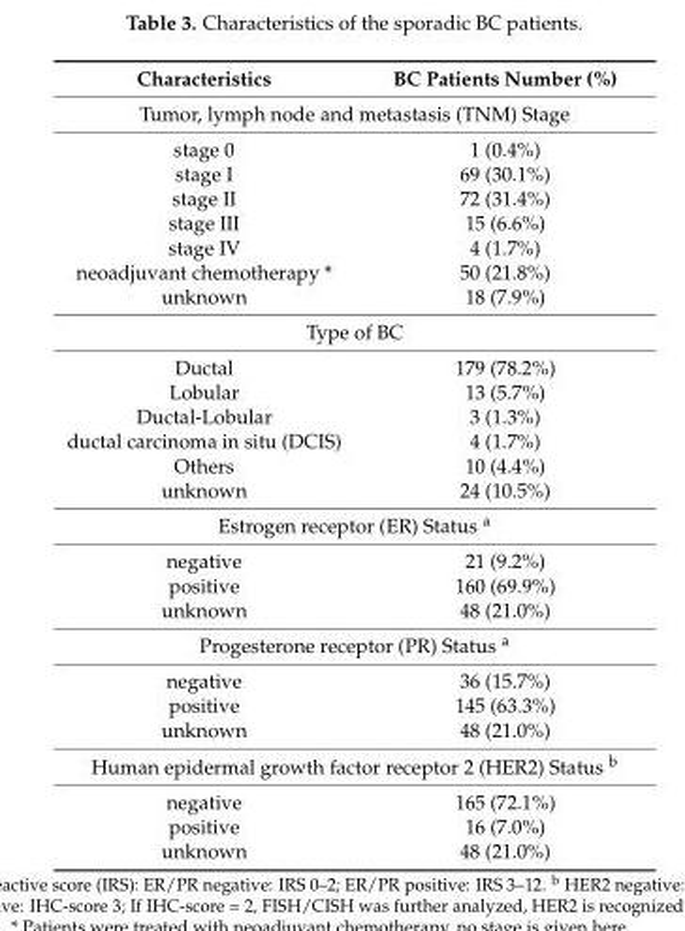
<table><thead><tr><td>Characteristics</td><td>BC Patients Number (%)</td></tr></thead><tbody><tr><td colspan="2">Tumor, lymph node and metastasis (TNM) Stage</td></tr><tr><td>stage 0</td><td>1 (0.4%)</td></tr><tr><td>stage I</td><td>69 (30.1%)</td></tr><tr><td>stage II</td><td>72 (31.4%)</td></tr><tr><td>stage III</td><td>15 (6.6%)</td></tr><tr><td>stage IV</td><td>4 (1.7%)</td></tr><tr><td>neoadjuvant chemotherapy *</td><td>50 (21.8%)</td></tr><tr><td>unknown</td><td>18 (7.9%)</td></tr><tr><td colspan="2">Type of BC</td></tr><tr><td>Ductal</td><td>179 (78.2%)</td></tr><tr><td>Lobular</td><td>13 (5.7%)</td></tr><tr><td>Ductal-Lobular</td><td>3 (1.3%)</td></tr><tr><td>ductal carcinoma in situ (DCIS)</td><td>4 (1.7%)</td></tr><tr><td>Others</td><td>10 (4.4%)</td></tr><tr><td>unknown</td><td>24 (10.5%)</td></tr><tr><td colspan="2">Estrogen receptor (ER) Status <sup>a</sup></td></tr><tr><td>negative</td><td>21 (9.2%)</td></tr><tr><td>positive</td><td>160 (69.9%)</td></tr><tr><td>unknown</td><td>48 (21.0%)</td></tr><tr><td colspan="2">Progesterone receptor (PR) Status <sup>a</sup></td></tr><tr><td>negative</td><td>36 (15.7%)</td></tr><tr><td>positive</td><td>145 (63.3%)</td></tr><tr><td>unknown</td><td>48 (21.0%)</td></tr><tr><td colspan="2">Human epidermal growth factor receptor 2 (HER2) Status <sup>b</sup></td></tr><tr><td>negative</td><td>165 (72.1%)</td></tr><tr><td>positive</td><td>16 (7.0%)</td></tr><tr><td>unknown</td><td>48 (21.0%)</td></tr></tbody></table>